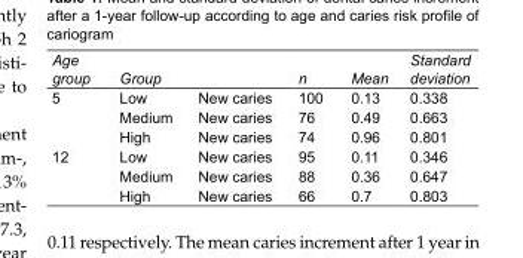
<table><tbody><tr><td>Age group</td><td>Group</td><td></td><td>n</td><td>Mean</td><td>Standard deviation</td></tr><tr><td rowspan="3">5</td><td>Low</td><td>New caries</td><td>100</td><td>0.13</td><td>0.338</td></tr><tr><td>Medium</td><td>New caries</td><td>76</td><td>0.49</td><td>0.663</td></tr><tr><td>High</td><td>New caries</td><td>74</td><td>0.96</td><td>0.801</td></tr><tr><td rowspan="3">12</td><td>Low</td><td>New caries</td><td>95</td><td>0.11</td><td>0.346</td></tr><tr><td>Medium</td><td>New caries</td><td>88</td><td>0.36</td><td>0.647</td></tr><tr><td>High</td><td>New caries</td><td>66</td><td>0.7</td><td>0.803</td></tr></tbody></table>